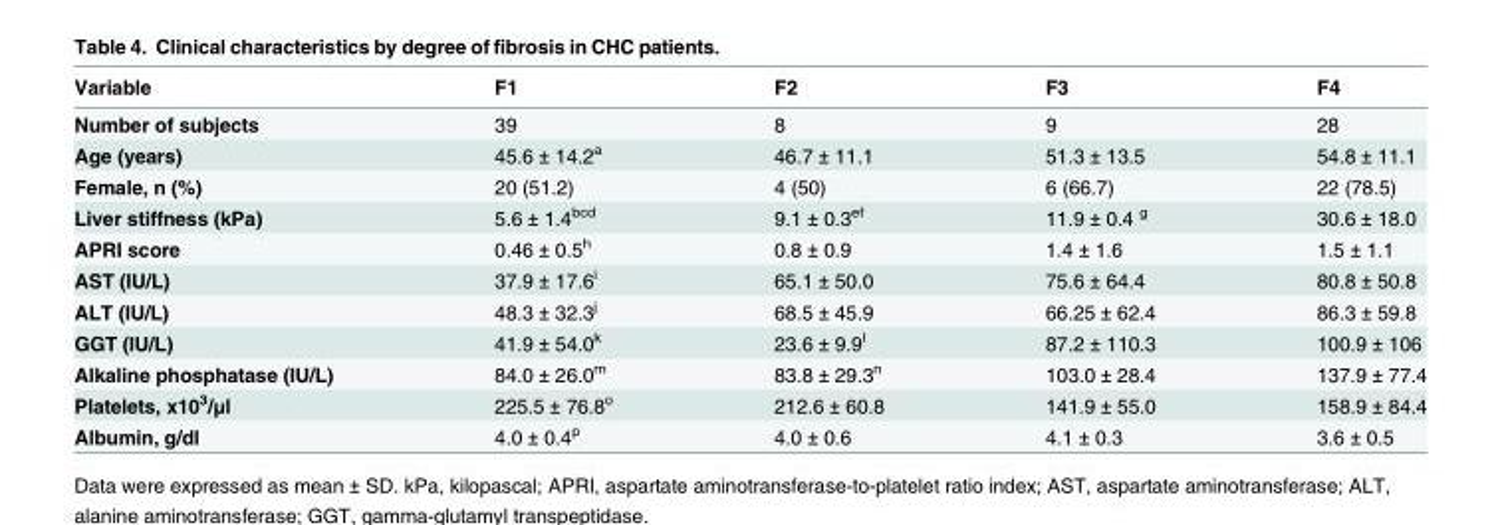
<table><thead><tr><td>Variable</td><td>F1</td><td>F2</td><td>F3</td><td>F4</td></tr></thead><tbody><tr><td>Number of subjects</td><td>39</td><td>8</td><td>9</td><td>28</td></tr><tr><td>Age (years)</td><td>45.6 ± 14.2<sup>a</sup></td><td>46.7 ± 11.1</td><td>51.3 ± 13.5</td><td>54.8 ± 11.1</td></tr><tr><td>Female, n (%)</td><td>20 (51.2)</td><td>4 (50)</td><td>6 (66.7)</td><td>22 (78.5)</td></tr><tr><td>Liver stiffness (kPa)</td><td>5.6 ± 1.4<sup>bcd</sup></td><td>9.1 ± 0.3<sup>ef</sup></td><td>11.9 ± 0.4 <sup>g</sup></td><td>30.6 ± 18.0</td></tr><tr><td>APRI score</td><td>0.46 ± 0.5<sup>h</sup></td><td>0.8 ± 0.9</td><td>1.4 ± 1.6</td><td>1.5 ± 1.1</td></tr><tr><td>AST (IU/L)</td><td>37.9 ± 17.6<sup>i</sup></td><td>65.1 ± 50.0</td><td>75.6 ± 64.4</td><td>80.8 ± 50.8</td></tr><tr><td>ALT (IU/L)</td><td>48.3 ± 32.3<sup>j</sup></td><td>68.5 ± 45.9</td><td>66.25 ± 62.4</td><td>86.3 ± 59.8</td></tr><tr><td>GGT (IU/L)</td><td>41.9 ± 54.0<sup>k</sup></td><td>23.6 ± 9.9<sup>l</sup></td><td>87.2 ± 110.3</td><td>100.9 ± 106</td></tr><tr><td>Alkaline phosphatase (IU/L)</td><td>84.0 ± 26.0<sup>m</sup></td><td>83.8 ± 29.3<sup>n</sup></td><td>103.0 ± 28.4</td><td>137.9 ± 77.4</td></tr><tr><td>Platelets, x10<sup>3</sup>/μl</td><td>225.5 ± 76.8<sup>o</sup></td><td>212.6 ± 60.8</td><td>141.9 ± 55.0</td><td>158.9 ± 84.4</td></tr><tr><td>Albumin, g/dl</td><td>4.0 ± 0.4<sup>p</sup></td><td>4.0 ± 0.6</td><td>4.1 ± 0.3</td><td>3.6 ± 0.5</td></tr></tbody></table>